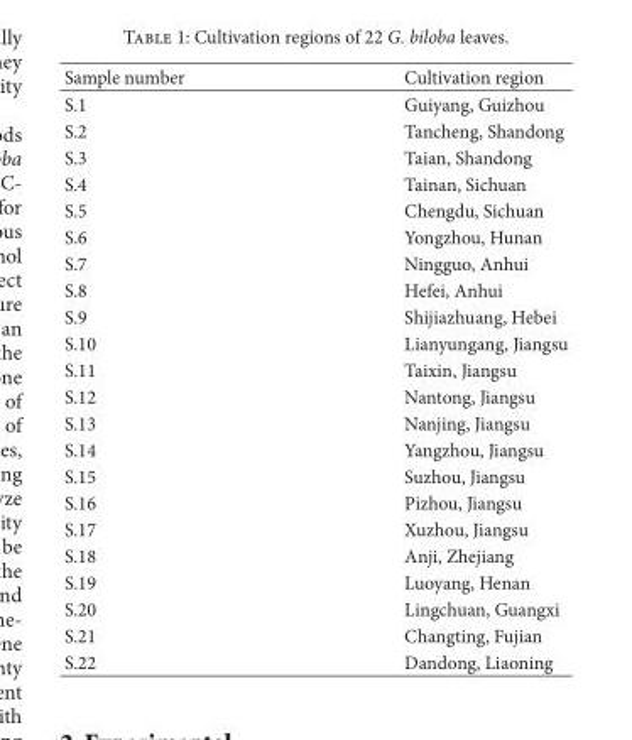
<table><thead><tr><td>Sample number</td><td>Cultivation region</td></tr></thead><tbody><tr><td>S.1</td><td>Guiyang, Guizhou</td></tr><tr><td>S.2</td><td>Tancheng, Shandong</td></tr><tr><td>S.3</td><td>Taian, Shandong</td></tr><tr><td>S.4</td><td>Tainan, Sichuan</td></tr><tr><td>S.5</td><td>Chengdu, Sichuan</td></tr><tr><td>S.6</td><td>Yongzhou, Hunan</td></tr><tr><td>S.7</td><td>Ningguo, Anhui</td></tr><tr><td>S.8</td><td>Hefei, Anhui</td></tr><tr><td>S.9</td><td>Shijiazhuang, Hebei</td></tr><tr><td>S.10</td><td>Lianyungang, Jiangsu</td></tr><tr><td>S.11</td><td>Taixin, Jiangsu</td></tr><tr><td>S.12</td><td>Nantong, Jiangsu</td></tr><tr><td>S.13</td><td>Nanjing, Jiangsu</td></tr><tr><td>S.14</td><td>Yangzhou, Jiangsu</td></tr><tr><td>S.15</td><td>Suzhou, Jiangsu</td></tr><tr><td>S.16</td><td>Pizhou, Jiangsu</td></tr><tr><td>S.17</td><td>Xuzhou, Jiangsu</td></tr><tr><td>S.18</td><td>Anji, Zhejiang</td></tr><tr><td>S.19</td><td>Luoyang, Henan</td></tr><tr><td>S.20</td><td>Lingchuan, Guangxi</td></tr><tr><td>S.21</td><td>Changting, Fujian</td></tr><tr><td>S.22</td><td>Dandong, Liaoning</td></tr></tbody></table>